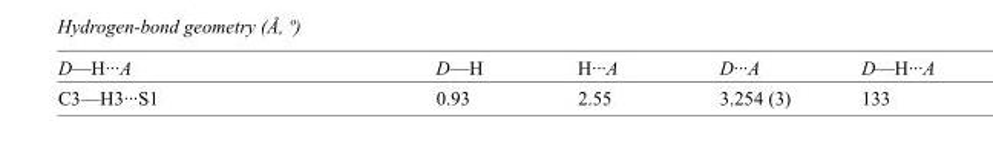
<table><tbody><tr><td>D—H···A</td><td>D—H</td><td>H···A</td><td>D···A</td><td>D—H···A</td></tr><tr><td>C3—H3···S1</td><td>0.93</td><td>2.55</td><td>3.254 (3)</td><td>133</td></tr></tbody></table>